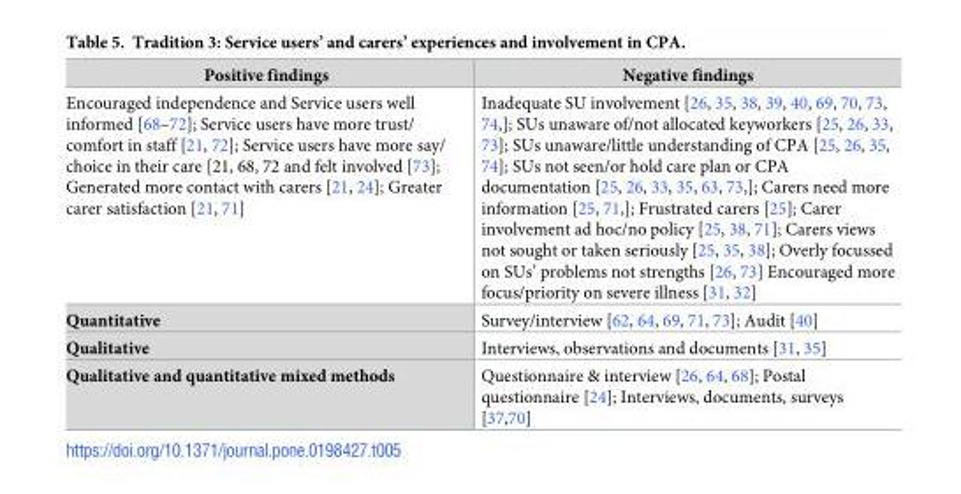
<table><thead><tr><td>Positive findings</td><td>Negative findings</td></tr></thead><tbody><tr><td>Encouraged independence and Service users well informed [68–72]; Service users have more trust/ comfort in staff [21, 72]; Service users have more say/ choice in their care [21, 68, 72 and felt involved [73]; Generated more contact with carers [21, 24]; Greater carer satisfaction [21, 71]</td><td>Inadequate SU involvement [26, 35, 38, 39, 40, 69, 70, 73, 74,]; SUs unaware of/not allocated keyworkers [25, 26, 33, 73]; SUs unaware/little understanding of CPA [25, 26, 35, 74]; SUs not seen/or hold care plan or CPA documentation [25, 26, 33, 35, 63, 73,]; Carers need more information [25, 71,]; Frustrated carers [25]; Carer involvement ad hoc/no policy [25, 38, 71]; Carers views not sought or taken seriously [25, 35, 38]; Overly focussed on SUs’ problems not strengths [26, 73] Encouraged more focus/priority on severe illness [31, 32]</td></tr><tr><td>Quantitative</td><td>Survey/interview [62, 64, 69, 71, 73]; Audit [40]</td></tr><tr><td>Qualitative</td><td>Interviews, observations and documents [31, 35]</td></tr><tr><td>Qualitative and quantitative mixed methods</td><td>Questionnaire &amp; interview [26, 64, 68]; Postal questionnaire [24]; Interviews, documents, surveys [37,70]</td></tr></tbody></table>